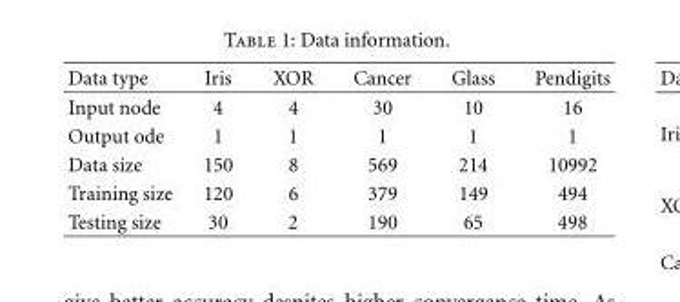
<table><thead><tr><td>Data type</td><td>Iris</td><td>XOR</td><td>Cancer</td><td>Glass</td><td>Pendigits</td></tr></thead><tbody><tr><td>Input node</td><td>4</td><td>4</td><td>30</td><td>10</td><td>16</td></tr><tr><td>Output ode</td><td>1</td><td>1</td><td>1</td><td>1</td><td>1</td></tr><tr><td>Data size</td><td>150</td><td>8</td><td>569</td><td>214</td><td>10992</td></tr><tr><td>Training size</td><td>120</td><td>6</td><td>379</td><td>149</td><td>494</td></tr><tr><td>Testing size</td><td>30</td><td>2</td><td>190</td><td>65</td><td>498</td></tr></tbody></table>